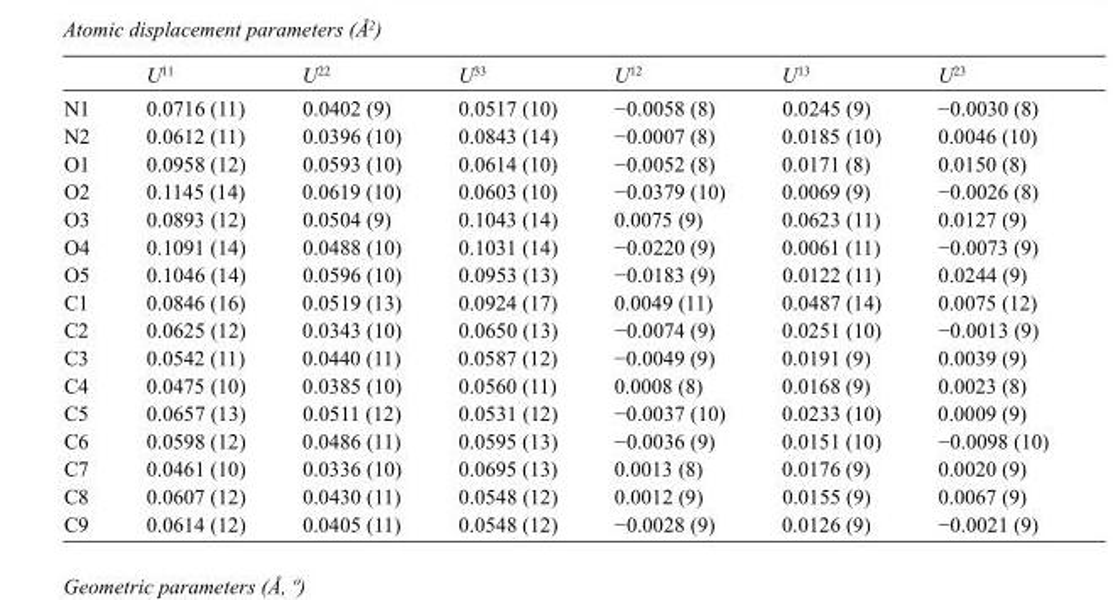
<table><thead><tr><td></td><td>U<sup>11</sup></td><td>U<sup>22</sup></td><td>U<sup>33</sup></td><td>U<sup>12</sup></td><td>U<sup>13</sup></td><td>U<sup>23</sup></td></tr></thead><tbody><tr><td>N1</td><td>0.0716 (11)</td><td>0.0402 (9)</td><td>0.0517 (10)</td><td>−0.0058 (8)</td><td>0.0245 (9)</td><td>−0.0030 (8)</td></tr><tr><td>N2</td><td>0.0612 (11)</td><td>0.0396 (10)</td><td>0.0843 (14)</td><td>−0.0007 (8)</td><td>0.0185 (10)</td><td>0.0046 (10)</td></tr><tr><td>O1</td><td>0.0958 (12)</td><td>0.0593 (10)</td><td>0.0614 (10)</td><td>−0.0052 (8)</td><td>0.0171 (8)</td><td>0.0150 (8)</td></tr><tr><td>O2</td><td>0.1145 (14)</td><td>0.0619 (10)</td><td>0.0603 (10)</td><td>−0.0379 (10)</td><td>0.0069 (9)</td><td>−0.0026 (8)</td></tr><tr><td>O3</td><td>0.0893 (12)</td><td>0.0504 (9)</td><td>0.1043 (14)</td><td>0.0075 (9)</td><td>0.0623 (11)</td><td>0.0127 (9)</td></tr><tr><td>O4</td><td>0.1091 (14)</td><td>0.0488 (10)</td><td>0.1031 (14)</td><td>−0.0220 (9)</td><td>0.0061 (11)</td><td>−0.0073 (9)</td></tr><tr><td>O5</td><td>0.1046 (14)</td><td>0.0596 (10)</td><td>0.0953 (13)</td><td>−0.0183 (9)</td><td>0.0122 (11)</td><td>0.0244 (9)</td></tr><tr><td>C1</td><td>0.0846 (16)</td><td>0.0519 (13)</td><td>0.0924 (17)</td><td>0.0049 (11)</td><td>0.0487 (14)</td><td>0.0075 (12)</td></tr><tr><td>C2</td><td>0.0625 (12)</td><td>0.0343 (10)</td><td>0.0650 (13)</td><td>−0.0074 (9)</td><td>0.0251 (10)</td><td>−0.0013 (9)</td></tr><tr><td>C3</td><td>0.0542 (11)</td><td>0.0440 (11)</td><td>0.0587 (12)</td><td>−0.0049 (9)</td><td>0.0191 (9)</td><td>0.0039 (9)</td></tr><tr><td>C4</td><td>0.0475 (10)</td><td>0.0385 (10)</td><td>0.0560 (11)</td><td>0.0008 (8)</td><td>0.0168 (9)</td><td>0.0023 (8)</td></tr><tr><td>C5</td><td>0.0657 (13)</td><td>0.0511 (12)</td><td>0.0531 (12)</td><td>−0.0037 (10)</td><td>0.0233 (10)</td><td>0.0009 (9)</td></tr><tr><td>C6</td><td>0.0598 (12)</td><td>0.0486 (11)</td><td>0.0595 (13)</td><td>−0.0036 (9)</td><td>0.0151 (10)</td><td>−0.0098 (10)</td></tr><tr><td>C7</td><td>0.0461 (10)</td><td>0.0336 (10)</td><td>0.0695 (13)</td><td>0.0013 (8)</td><td>0.0176 (9)</td><td>0.0020 (9)</td></tr><tr><td>C8</td><td>0.0607 (12)</td><td>0.0430 (11)</td><td>0.0548 (12)</td><td>0.0012 (9)</td><td>0.0155 (9)</td><td>0.0067 (9)</td></tr><tr><td>C9</td><td>0.0614 (12)</td><td>0.0405 (11)</td><td>0.0548 (12)</td><td>−0.0028 (9)</td><td>0.0126 (9)</td><td>−0.0021 (9)</td></tr></tbody></table>